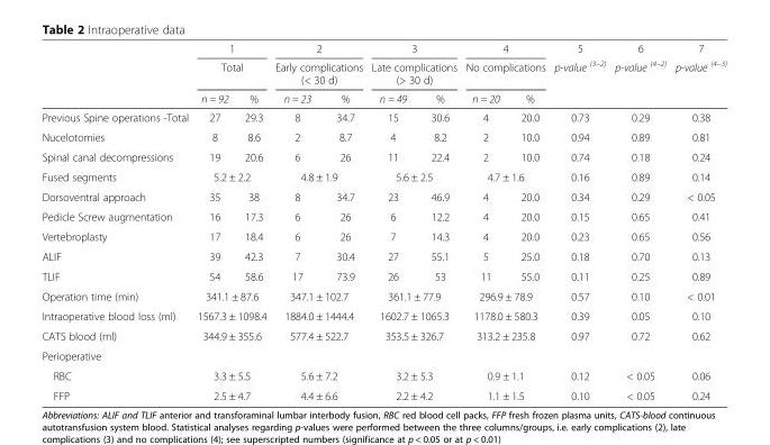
<table><thead><tr><td rowspan="3"></td><td rowspan="2" colspan="2">1 Total</td><td rowspan="2" colspan="2">2 Early complications (&lt; 30 d)</td><td rowspan="2" colspan="2">3 Late complications (&gt; 30 d)</td><td rowspan="2" colspan="2">4 No complications</td><td rowspan="3">5 p-value (3–2)</td><td rowspan="3">6 p-value (4–2)</td><td rowspan="3">7 p-value (4–3)</td></tr><tr></tr><tr><td>n = 92</td><td>%</td><td>n = 23</td><td>%</td><td>n = 49</td><td>%</td><td>n = 20</td><td>%</td></tr></thead><tbody><tr><td>Previous Spine operations -Total</td><td>27</td><td>29.3</td><td>8</td><td>34.7</td><td>15</td><td>30.6</td><td>4</td><td>20.0</td><td>0.73</td><td>0.29</td><td>0.38</td></tr><tr><td>Nucelotomies</td><td>8</td><td>8.6</td><td>2</td><td>8.7</td><td>4</td><td>8.2</td><td>2</td><td>10.0</td><td>0.94</td><td>0.89</td><td>0.81</td></tr><tr><td>Spinal canal decompressions</td><td>19</td><td>20.6</td><td>6</td><td>26</td><td>11</td><td>22.4</td><td>2</td><td>10.0</td><td>0.74</td><td>0.18</td><td>0.24</td></tr><tr><td>Fused segments</td><td colspan="2">5.2 ± 2.2</td><td colspan="2">4.8 ± 1.9</td><td colspan="2">5.6 ± 2.5</td><td colspan="2">4.7 ± 1.6</td><td>0.16</td><td>0.89</td><td>0.14</td></tr><tr><td>Dorsoventral approach</td><td>35</td><td>38</td><td>8</td><td>34.7</td><td>23</td><td>46.9</td><td>4</td><td>20.0</td><td>0.34</td><td>0.29</td><td>&lt; 0.05</td></tr><tr><td>Pedicle Screw augmentation</td><td>16</td><td>17.3</td><td>6</td><td>26</td><td>6</td><td>12.2</td><td>4</td><td>20.0</td><td>0.15</td><td>0.65</td><td>0.41</td></tr><tr><td>Vertebroplasty</td><td>17</td><td>18.4</td><td>6</td><td>26</td><td>7</td><td>14.3</td><td>4</td><td>20.0</td><td>0.23</td><td>0.65</td><td>0.56</td></tr><tr><td>ALIF</td><td>39</td><td>42.3</td><td>7</td><td>30.4</td><td>27</td><td>55.1</td><td>5</td><td>25.0</td><td>0.18</td><td>0.70</td><td>0.13</td></tr><tr><td>TLIF</td><td>54</td><td>58.6</td><td>17</td><td>73.9</td><td>26</td><td>53</td><td>11</td><td>55.0</td><td>0.11</td><td>0.25</td><td>0.89</td></tr><tr><td>Operation time (min)</td><td colspan="2">341.1 ± 87.6</td><td colspan="2">347.1 ± 102.7</td><td colspan="2">361.1 ± 77.9</td><td colspan="2">296.9 ± 78.9</td><td>0.57</td><td>0.10</td><td>&lt; 0.01</td></tr><tr><td>Intraoperative blood loss (ml)</td><td colspan="2">1567.3 ± 1098.4</td><td colspan="2">1884.0 ± 1444.4</td><td colspan="2">1602.7 ± 1065.3</td><td colspan="2">1178.0 ± 580.3</td><td>0.39</td><td>0.05</td><td>0.10</td></tr><tr><td>CATS blood (ml)</td><td colspan="2">344.9 ± 355.6</td><td colspan="2">577.4 ± 522.7</td><td colspan="2">353.5 ± 326.7</td><td colspan="2">313.2 ± 235.8</td><td>0.97</td><td>0.72</td><td>0.62</td></tr><tr><td colspan="12">Perioperative</td></tr><tr><td>RBC</td><td colspan="2">3.3 ± 5.5</td><td colspan="2">5.6 ± 7.2</td><td colspan="2">3.2 ± 5.3</td><td colspan="2">0.9 ± 1.1</td><td>0.12</td><td>&lt; 0.05</td><td>0.06</td></tr><tr><td>FFP</td><td colspan="2">2.5 ± 4.7</td><td colspan="2">4.4 ± 6.6</td><td colspan="2">2.2 ± 4.2</td><td colspan="2">1.1 ± 1.5</td><td>0.10</td><td>&lt; 0.05</td><td>0.24</td></tr></tbody></table>